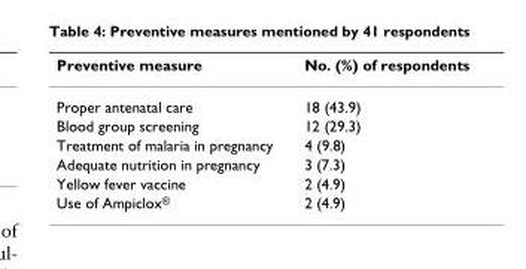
<table><thead><tr><td>Preventive measure</td><td>No. (%) of respondents</td></tr></thead><tbody><tr><td>Proper antenatal care</td><td>18 (43.9)</td></tr><tr><td>Blood group screening</td><td>12 (29.3)</td></tr><tr><td>Treatment of malaria in pregnancy</td><td>4 (9.8)</td></tr><tr><td>Adequate nutrition in pregnancy</td><td>3 (7.3)</td></tr><tr><td>Yellow fever vaccine</td><td>2 (4.9)</td></tr><tr><td>Use of Ampiclox®</td><td>2 (4.9)</td></tr></tbody></table>